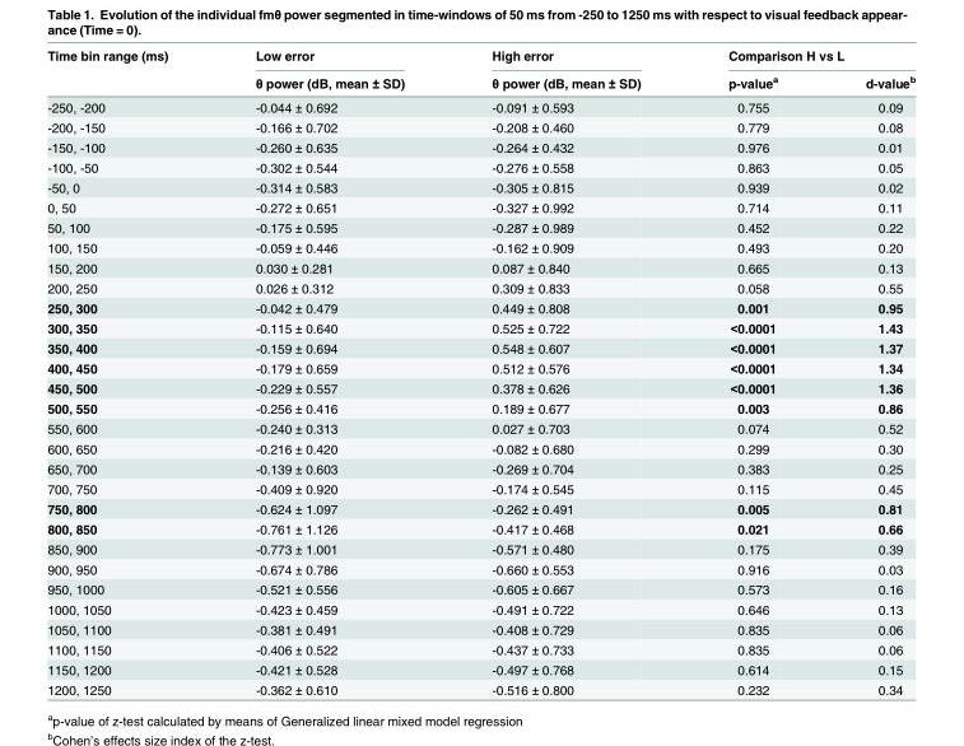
<table><thead><tr><td rowspan="2">Time bin range (ms)</td><td rowspan="2">Low error θ power (dB, mean ± SD)</td><td rowspan="2">High error θ power (dB, mean ± SD)</td><td colspan="2">Comparison H vs L</td></tr><tr><td>p-value<sup>a</sup></td><td>d-value<sup>b</sup></td></tr></thead><tbody><tr><td>-250, -200</td><td>-0.044 ± 0.692</td><td>-0.091 ± 0.593</td><td>0.755</td><td>0.09</td></tr><tr><td>-200, -150</td><td>-0.166 ± 0.702</td><td>-0.208 ± 0.460</td><td>0.779</td><td>0.08</td></tr><tr><td>-150, -100</td><td>-0.260 ± 0.635</td><td>-0.264 ± 0.432</td><td>0.976</td><td>0.01</td></tr><tr><td>-100, -50</td><td>-0.302 ± 0.544</td><td>-0.276 ± 0.558</td><td>0.863</td><td>0.05</td></tr><tr><td>-50, 0</td><td>-0.314 ± 0.583</td><td>-0.305 ± 0.815</td><td>0.939</td><td>0.02</td></tr><tr><td>0, 50</td><td>-0.272 ± 0.651</td><td>-0.327 ± 0.992</td><td>0.714</td><td>0.11</td></tr><tr><td>50, 100</td><td>-0.175 ± 0.595</td><td>-0.287 ± 0.989</td><td>0.452</td><td>0.22</td></tr><tr><td>100, 150</td><td>-0.059 ± 0.446</td><td>-0.162 ± 0.909</td><td>0.493</td><td>0.20</td></tr><tr><td>150, 200</td><td>0.030 ± 0.281</td><td>0.087 ± 0.840</td><td>0.665</td><td>0.13</td></tr><tr><td>200, 250</td><td>0.026 ± 0.312</td><td>0.309 ± 0.833</td><td>0.058</td><td>0.55</td></tr><tr><td>250, 300</td><td>-0.042 ± 0.479</td><td>0.449 ± 0.808</td><td>0.001</td><td>0.95</td></tr><tr><td>300, 350</td><td>-0.115 ± 0.640</td><td>0.525 ± 0.722</td><td>&lt;0.0001</td><td>1.43</td></tr><tr><td>350, 400</td><td>-0.159 ± 0.694</td><td>0.548 ± 0.607</td><td>&lt;0.0001</td><td>1.37</td></tr><tr><td>400, 450</td><td>-0.179 ± 0.659</td><td>0.512 ± 0.576</td><td>&lt;0.0001</td><td>1.34</td></tr><tr><td>450, 500</td><td>-0.229 ± 0.557</td><td>0.378 ± 0.626</td><td>&lt;0.0001</td><td>1.36</td></tr><tr><td>500, 550</td><td>-0.256 ± 0.416</td><td>0.189 ± 0.677</td><td>0.003</td><td>0.86</td></tr><tr><td>550, 600</td><td>-0.240 ± 0.313</td><td>0.027 ± 0.703</td><td>0.074</td><td>0.52</td></tr><tr><td>600, 650</td><td>-0.216 ± 0.420</td><td>-0.082 ± 0.680</td><td>0.299</td><td>0.30</td></tr><tr><td>650, 700</td><td>-0.139 ± 0.603</td><td>-0.269 ± 0.704</td><td>0.383</td><td>0.25</td></tr><tr><td>700, 750</td><td>-0.409 ± 0.920</td><td>-0.174 ± 0.545</td><td>0.115</td><td>0.45</td></tr><tr><td>750, 800</td><td>-0.624 ± 1.097</td><td>-0.262 ± 0.491</td><td>0.005</td><td>0.81</td></tr><tr><td>800, 850</td><td>-0.761 ± 1.126</td><td>-0.417 ± 0.468</td><td>0.021</td><td>0.66</td></tr><tr><td>850, 900</td><td>-0.773 ± 1.001</td><td>-0.571 ± 0.480</td><td>0.175</td><td>0.39</td></tr><tr><td>900, 950</td><td>-0.674 ± 0.786</td><td>-0.660 ± 0.553</td><td>0.916</td><td>0.03</td></tr><tr><td>950, 1000</td><td>-0.521 ± 0.556</td><td>-0.605 ± 0.667</td><td>0.573</td><td>0.16</td></tr><tr><td>1000, 1050</td><td>-0.423 ± 0.459</td><td>-0.491 ± 0.722</td><td>0.646</td><td>0.13</td></tr><tr><td>1050, 1100</td><td>-0.381 ± 0.491</td><td>-0.408 ± 0.729</td><td>0.835</td><td>0.06</td></tr><tr><td>1100, 1150</td><td>-0.406 ± 0.522</td><td>-0.437 ± 0.733</td><td>0.835</td><td>0.06</td></tr><tr><td>1150, 1200</td><td>-0.421 ± 0.528</td><td>-0.497 ± 0.768</td><td>0.614</td><td>0.15</td></tr><tr><td>1200, 1250</td><td>-0.362 ± 0.610</td><td>-0.516 ± 0.800</td><td>0.232</td><td>0.34</td></tr></tbody></table>